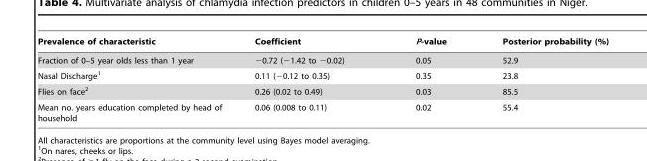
<table><thead><tr><td>Prevalence of characteristic</td><td>Coefficient</td><td>P-value</td><td>Posterior probability (%)</td></tr></thead><tbody><tr><td>Fraction of 0–5 year olds less than 1 year</td><td>−0.72 (−1.42 to −0.02)</td><td>0.05</td><td>52.9</td></tr><tr><td>Nasal Discharge<sup>1</sup></td><td>0.11 (−0.12 to 0.35)</td><td>0.35</td><td>23.8</td></tr><tr><td>Flies on face<sup>2</sup></td><td>0.26 (0.02 to 0.49)</td><td>0.03</td><td>85.5</td></tr><tr><td>Mean no. years education completed by head of household</td><td>0.06 (0.008 to 0.11)</td><td>0.02</td><td>55.4</td></tr></tbody></table>